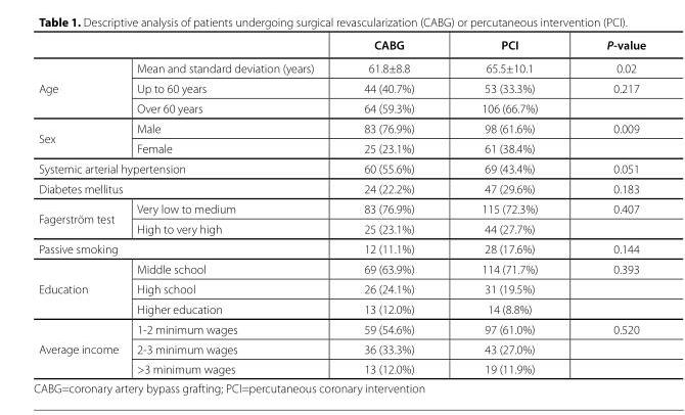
<table><thead><tr><td></td><td></td><td>CABG</td><td>PCI</td><td>P-value</td></tr></thead><tbody><tr><td rowspan="3">Age</td><td>Mean and standard deviation (years)</td><td>61.8±8.8</td><td>65.5±10.1</td><td>0.02</td></tr><tr><td>Up to 60 years</td><td>44 (40.7%)</td><td>53 (33.3%)</td><td>0.217</td></tr><tr><td>Over 60 years</td><td>64 (59.3%)</td><td>106 (66.7%)</td><td></td></tr><tr><td rowspan="2">Sex</td><td>Male</td><td>83 (76.9%)</td><td>98 (61.6%)</td><td>0.009</td></tr><tr><td>Female</td><td>25 (23.1%)</td><td>61 (38.4%)</td><td></td></tr><tr><td colspan="2">Systemic arterial hypertension</td><td>60 (55.6%)</td><td>69 (43.4%)</td><td>0.051</td></tr><tr><td colspan="2">Diabetes mellitus</td><td>24 (22.2%)</td><td>47 (29.6%)</td><td>0.183</td></tr><tr><td rowspan="2">Fagerström test</td><td>Very low to medium</td><td>83 (76.9%)</td><td>115 (72.3%)</td><td>0.407</td></tr><tr><td>High to very high</td><td>25 (23.1%)</td><td>44 (27.7%)</td><td></td></tr><tr><td colspan="2">Passive smoking</td><td>12 (11.1%)</td><td>28 (17.6%)</td><td>0.144</td></tr><tr><td rowspan="3">Education</td><td>Middle school</td><td>69 (63.9%)</td><td>114 (71.7%)</td><td>0.393</td></tr><tr><td>High school</td><td>26 (24.1%)</td><td>31 (19.5%)</td><td></td></tr><tr><td>Higher education</td><td>13 (12.0%)</td><td>14 (8.8%)</td><td></td></tr><tr><td rowspan="3">Average income</td><td>1-2 minimum wages</td><td>59 (54.6%)</td><td>97 (61.0%)</td><td>0.520</td></tr><tr><td>2-3 minimum wages</td><td>36 (33.3%)</td><td>43 (27.0%)</td><td></td></tr><tr><td>&gt;3 minimum wages</td><td>13 (12.0%)</td><td>19 (11.9%)</td><td></td></tr></tbody></table>